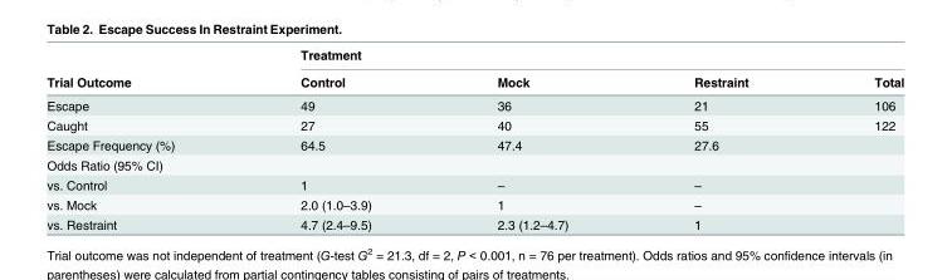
<table><thead><tr><td rowspan="2">Trial Outcome</td><td colspan="4">Treatment</td></tr><tr><td>Control</td><td>Mock</td><td>Restraint</td><td>Total</td></tr></thead><tbody><tr><td>Escape</td><td>49</td><td>36</td><td>21</td><td>106</td></tr><tr><td>Caught</td><td>27</td><td>40</td><td>55</td><td>122</td></tr><tr><td>Escape Frequency (%)</td><td>64.5</td><td>47.4</td><td>27.6</td><td></td></tr><tr><td colspan="5">Odds Ratio (95% CI)</td></tr><tr><td>vs. Control</td><td>1</td><td>–</td><td>–</td><td></td></tr><tr><td>vs. Mock</td><td>2.0 (1.0–3.9)</td><td>1</td><td>–</td><td></td></tr><tr><td>vs. Restraint</td><td>4.7 (2.4–9.5)</td><td>2.3 (1.2–4.7)</td><td>1</td><td></td></tr></tbody></table>